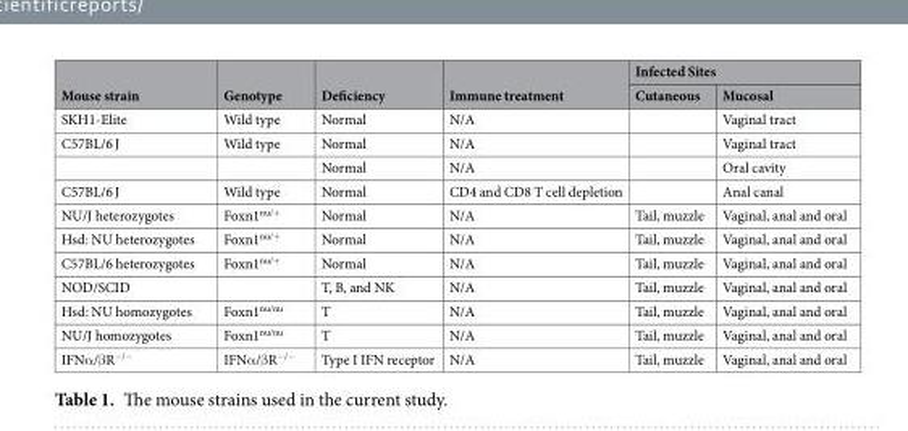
<table><thead><tr><td rowspan="2">Mouse strain</td><td rowspan="2">Genotype</td><td rowspan="2">Deficiency</td><td rowspan="2">Immune treatment</td><td colspan="2">Infected Sites</td></tr><tr><td>Cutaneous</td><td>Mucosal</td></tr></thead><tbody><tr><td>SKH1-Elite</td><td>Wild type</td><td>Normal</td><td>N/A</td><td></td><td>Vaginal tract</td></tr><tr><td rowspan="2">C57BL/6 J</td><td>Wild type</td><td>Normal</td><td>N/A</td><td></td><td>Vaginal tract</td></tr><tr><td></td><td>Normal</td><td>N/A</td><td></td><td>Oral cavity</td></tr><tr><td>C57BL/6 J</td><td>Wild type</td><td>Normal</td><td>CD4 and CD8 T cell depletion</td><td></td><td>Anal canal</td></tr><tr><td>NU/J heterozygotes</td><td>Foxn1<sup>nu/+</sup></td><td>Normal</td><td>N/A</td><td>Tail, muzzle</td><td>Vaginal, anal and oral</td></tr><tr><td>Hsd: NU heterozygotes</td><td>Foxn1<sup>nu/+</sup></td><td>Normal</td><td>N/A</td><td>Tail, muzzle</td><td>Vaginal, anal and oral</td></tr><tr><td>C57BL/6 heterozygotes</td><td>Foxn1<sup>nu/+</sup></td><td>Normal</td><td>N/A</td><td>Tail, muzzle</td><td>Vaginal, anal and oral</td></tr><tr><td>NOD/SCID</td><td></td><td>T, B, and NK</td><td>N/A</td><td>Tail, muzzle</td><td>Vaginal, anal and oral</td></tr><tr><td>Hsd: NU homozygotes</td><td>Foxn1<sup>nu/nu</sup></td><td>T</td><td>N/A</td><td>Tail, muzzle</td><td>Vaginal, anal and oral</td></tr><tr><td>NU/J homozygotes</td><td>Foxn1<sup>nu/nu</sup></td><td>T</td><td>N/A</td><td>Tail, muzzle</td><td>Vaginal, anal and oral</td></tr><tr><td>IFNα/βR<sup>−/−</sup></td><td>IFNα/βR<sup>−/−</sup></td><td>Type I IFN receptor</td><td>N/A</td><td>Tail, muzzle</td><td>Vaginal, anal and oral</td></tr></tbody></table>